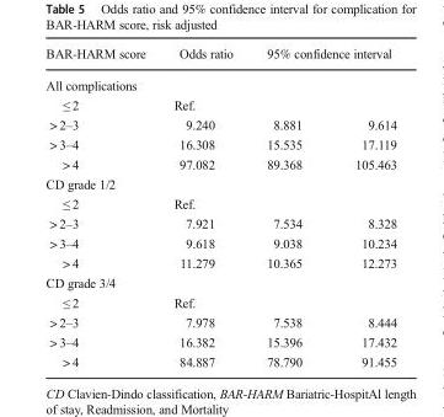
<table><thead><tr><td>BAR-HARM score</td><td>Odds ratio</td><td colspan="2">95% confidence interval</td></tr><tr><td colspan="4">All complications</td></tr><tr><td rowspan="2">≤ 2 &gt; 2–3</td><td colspan="3">Ref.</td></tr><tr><td>9.240</td><td>8.881</td><td>9.614</td></tr></thead><tbody><tr><td>&gt; 3–4</td><td>16.308</td><td>15.535</td><td>17.119</td></tr><tr><td>&gt; 4</td><td>97.082</td><td>89.368</td><td>105.463</td></tr><tr><td colspan="4">CD grade 1/2</td></tr><tr><td>≤ 2</td><td colspan="3">Ref.</td></tr><tr><td>&gt; 2–3</td><td>7.921</td><td>7.534</td><td>8.328</td></tr><tr><td>&gt; 3–4</td><td>9.618</td><td>9.038</td><td>10.234</td></tr><tr><td>&gt; 4</td><td>11.279</td><td>10.365</td><td>12.273</td></tr><tr><td colspan="4">CD grade 3/4</td></tr><tr><td>≤ 2</td><td colspan="3">Ref.</td></tr><tr><td>&gt; 2–3</td><td>7.978</td><td>7.538</td><td>8.444</td></tr><tr><td>&gt; 3–4</td><td>16.382</td><td>15.396</td><td>17.432</td></tr><tr><td>&gt; 4</td><td>84.887</td><td>78.790</td><td>91.455</td></tr></tbody></table>